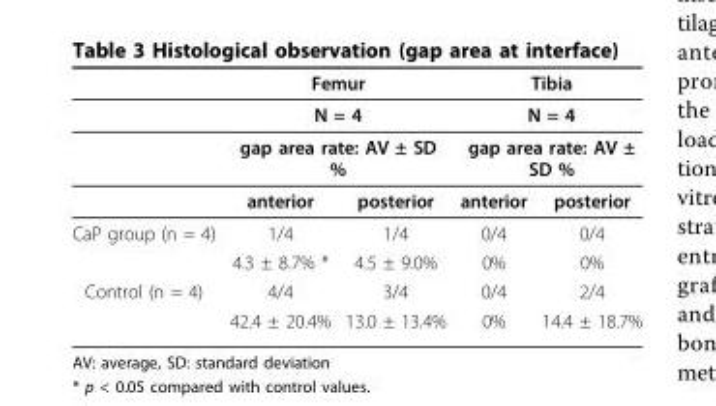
<table><thead><tr><td rowspan="4"></td><td rowspan="3" colspan="2">Femur N = 4 gap area rate: AV ± SD %</td><td rowspan="3" colspan="2">Tibia N = 4 gap area rate: AV ± SD %</td></tr><tr></tr><tr></tr><tr><td>anterior</td><td>posterior</td><td>anterior</td><td>posterior</td></tr></thead><tbody><tr><td rowspan="2">CaP group (n = 4)</td><td>1/4</td><td>1/4</td><td>0/4</td><td>0/4</td></tr><tr><td>4.3 ± 8.7% *</td><td>4.5 ± 9.0%</td><td>0%</td><td>0%</td></tr><tr><td rowspan="2">Control (n = 4)</td><td>4/4</td><td>3/4</td><td>0/4</td><td>2/4</td></tr><tr><td>42.4 ± 20.4%</td><td>13.0 ± 13.4%</td><td>0%</td><td>14.4 ± 18.7%</td></tr></tbody></table>